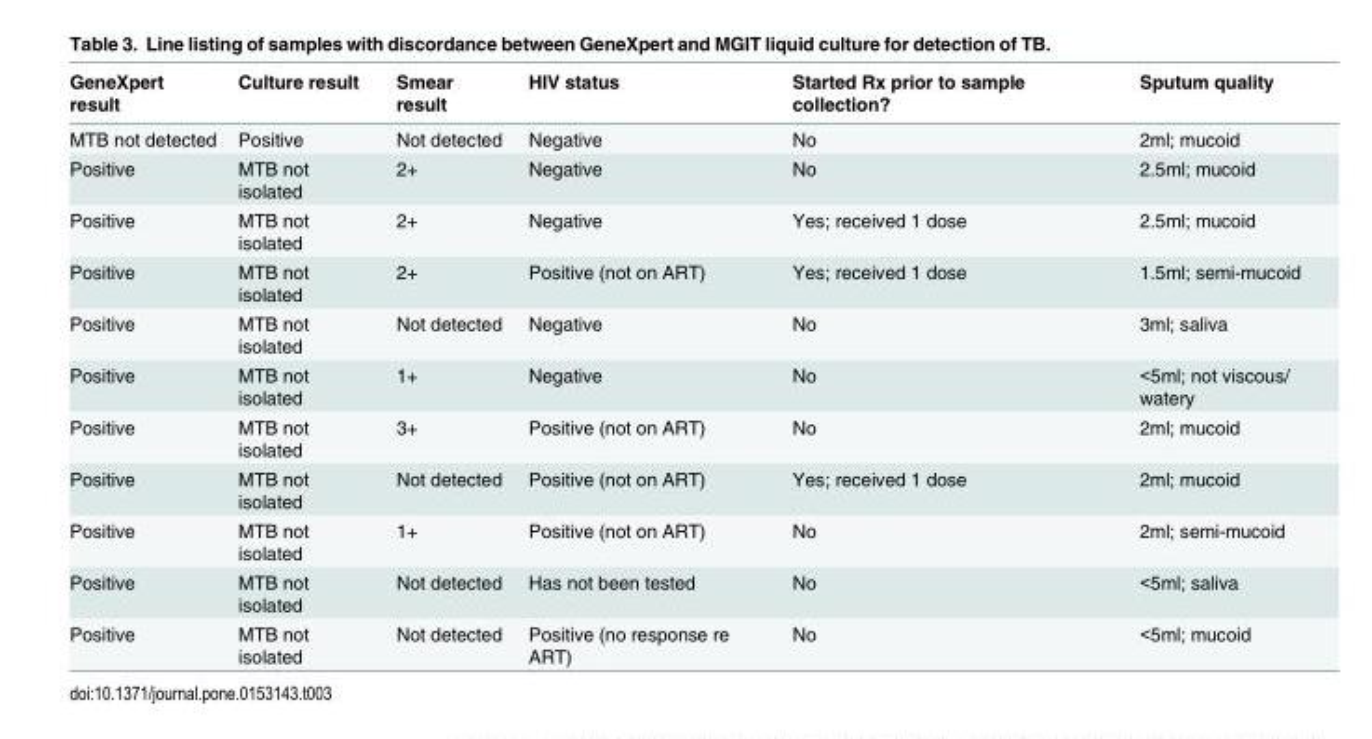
<table><thead><tr><td>GeneXpert result</td><td>Culture result</td><td>Smear result</td><td>HIV status</td><td>Started Rx prior to sample collection?</td><td>Sputum quality</td></tr></thead><tbody><tr><td>MTB not detected</td><td>Positive</td><td>Not detected</td><td>Negative</td><td>No</td><td>2ml; mucoid</td></tr><tr><td>Positive</td><td>MTB not isolated</td><td>2+</td><td>Negative</td><td>No</td><td>2.5ml; mucoid</td></tr><tr><td>Positive</td><td>MTB not isolated</td><td>2+</td><td>Negative</td><td>Yes; received 1 dose</td><td>2.5ml; mucoid</td></tr><tr><td>Positive</td><td>MTB not isolated</td><td>2+</td><td>Positive (not on ART)</td><td>Yes; received 1 dose</td><td>1.5ml; semi-mucoid</td></tr><tr><td>Positive</td><td>MTB not isolated</td><td>Not detected</td><td>Negative</td><td>No</td><td>3ml; saliva</td></tr><tr><td>Positive</td><td>MTB not isolated</td><td>1+</td><td>Negative</td><td>No</td><td>&lt;5ml; not viscous/ watery</td></tr><tr><td>Positive</td><td>MTB not isolated</td><td>3+</td><td>Positive (not on ART)</td><td>No</td><td>2ml; mucoid</td></tr><tr><td>Positive</td><td>MTB not isolated</td><td>Not detected</td><td>Positive (not on ART)</td><td>Yes; received 1 dose</td><td>2ml; mucoid</td></tr><tr><td>Positive</td><td>MTB not isolated</td><td>1+</td><td>Positive (not on ART)</td><td>No</td><td>2ml; semi-mucoid</td></tr><tr><td>Positive</td><td>MTB not isolated</td><td>Not detected</td><td>Has not been tested</td><td>No</td><td>&lt;5ml; saliva</td></tr><tr><td>Positive</td><td>MTB not isolated</td><td>Not detected</td><td>Positive (no response re ART)</td><td>No</td><td>&lt;5ml; mucoid</td></tr></tbody></table>